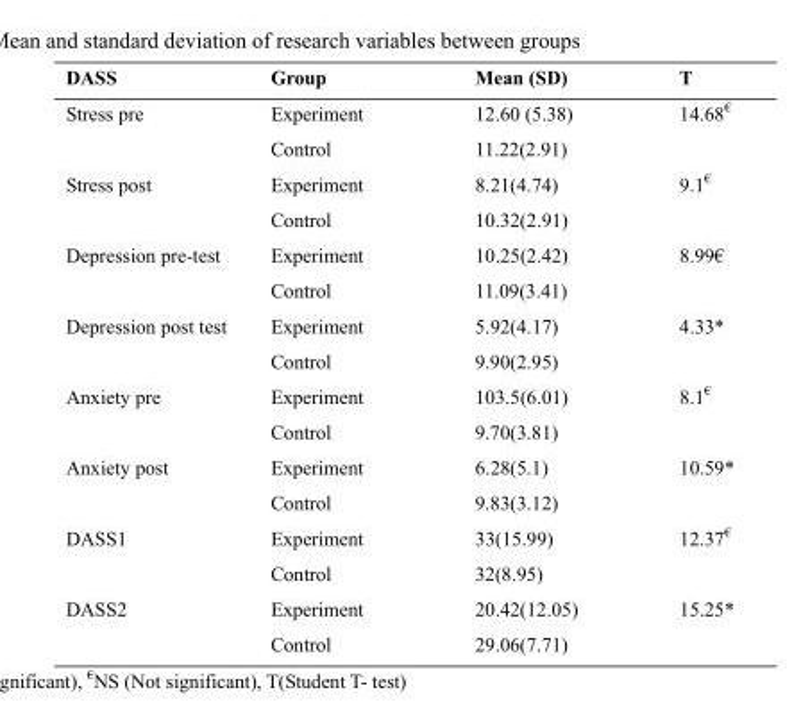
<table><thead><tr><td>DASS</td><td>Group</td><td>Mean (SD)</td><td>T</td></tr></thead><tbody><tr><td rowspan="2">Stress pre</td><td>Experiment</td><td>12.60 (5.38)</td><td rowspan="2">14.68<sup>€</sup></td></tr><tr><td>Control</td><td>11.22(2.91)</td></tr><tr><td rowspan="2">Stress post</td><td>Experiment</td><td>8.21(4.74)</td><td rowspan="2">9.1<sup>€</sup></td></tr><tr><td>Control</td><td>10.32(2.91)</td></tr><tr><td rowspan="2">Depression pre-test</td><td>Experiment</td><td>10.25(2.42)</td><td rowspan="2">8.99<sup>€</sup></td></tr><tr><td>Control</td><td>11.09(3.41)</td></tr><tr><td rowspan="2">Depression post test</td><td>Experiment</td><td>5.92(4.17)</td><td rowspan="2">4.33*</td></tr><tr><td>Control</td><td>9.90(2.95)</td></tr><tr><td rowspan="2">Anxiety pre</td><td>Experiment</td><td>103.5(6.01)</td><td rowspan="2">8.1<sup>€</sup></td></tr><tr><td>Control</td><td>9.70(3.81)</td></tr><tr><td rowspan="2">Anxiety post</td><td>Experiment</td><td>6.28(5.1)</td><td rowspan="2">10.59*</td></tr><tr><td>Control</td><td>9.83(3.12)</td></tr><tr><td rowspan="2">DASS1</td><td>Experiment</td><td>33(15.99)</td><td rowspan="2">12.37<sup>€</sup></td></tr><tr><td>Control</td><td>32(8.95)</td></tr><tr><td rowspan="2">DASS2</td><td>Experiment</td><td>20.42(12.05)</td><td rowspan="2">15.25*</td></tr><tr><td>Control</td><td>29.06(7.71)</td></tr></tbody></table>